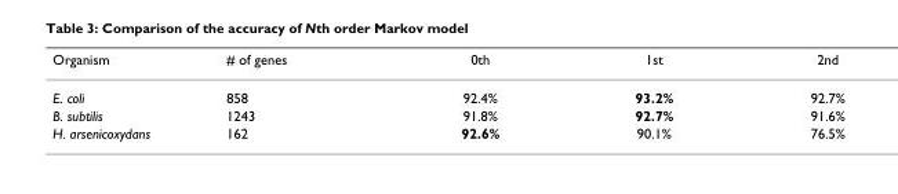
<table><thead><tr><td>Organism</td><td># of genes</td><td>0th</td><td>1st</td><td>2nd</td></tr></thead><tbody><tr><td>E. coli</td><td>858</td><td>92.4%</td><td>93.2%</td><td>92.7%</td></tr><tr><td>B. subtilis</td><td>1243</td><td>91.8%</td><td>92.7%</td><td>91.6%</td></tr><tr><td>H. arsenicoxydans</td><td>162</td><td>92.6%</td><td>90.1%</td><td>76.5%</td></tr></tbody></table>